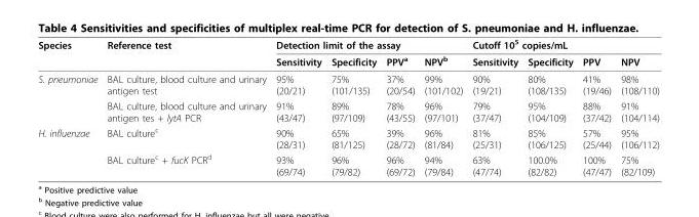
<table><thead><tr><td rowspan="2">Species</td><td rowspan="2">Reference test</td><td colspan="4">Detection limit of the assay</td><td colspan="4">Cutoff 10<sup>5</sup> copies/mL</td></tr><tr><td>Sensitivity</td><td>Specificity</td><td>PPV<sup>a</sup></td><td>NPV<sup>b</sup></td><td>Sensitivity</td><td>Specificity</td><td>PPV</td><td>NPV</td></tr></thead><tbody><tr><td rowspan="2">S. pneumoniae</td><td>BAL culture, blood culture and urinary antigen test</td><td>95% (20/21)</td><td>75% (101/135)</td><td>37% (20/54)</td><td>99% (101/102)</td><td>90% (19/21)</td><td>80% (108/135)</td><td>41% (19/46)</td><td>98% (108/110)</td></tr><tr><td>BAL culture, blood culture and urinary antigen tes + lytA PCR</td><td>91% (43/47)</td><td>89% (97/109)</td><td>78% (43/55)</td><td>96% (97/101)</td><td>79% (37/47)</td><td>95% (104/109)</td><td>88% (37/42)</td><td>91% (104/114)</td></tr><tr><td rowspan="2">H. influenzae</td><td>BAL culture<sup>c</sup></td><td>90% (28/31)</td><td>65% (81/125)</td><td>39% (28/72)</td><td>96% (81/84)</td><td>81% (25/31)</td><td>85% (106/125)</td><td>57% (25/44)</td><td>95% (106/112)</td></tr><tr><td>BAL culture<sup>c</sup> + fucK PCR<sup>d</sup></td><td>93% (69/74)</td><td>96% (79/82)</td><td>96% (69/72)</td><td>94% (79/84)</td><td>63% (47/74)</td><td>100.0% (82/82)</td><td>100% (47/47)</td><td>75% (82/109)</td></tr></tbody></table>